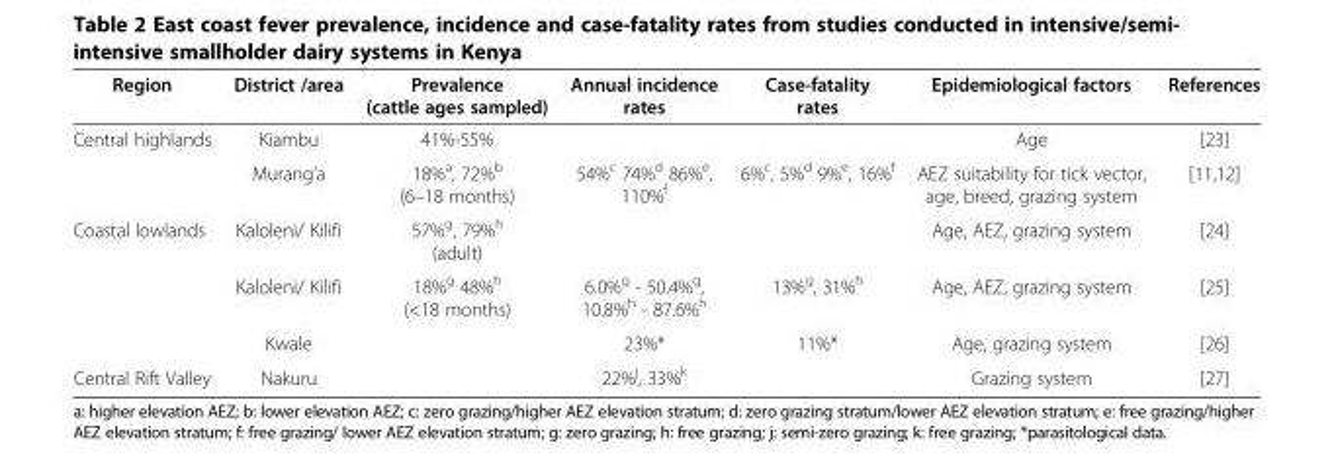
<table><thead><tr><td>Region</td><td>District /area</td><td>Prevalence (cattle ages sampled)</td><td>Annual incidence rates</td><td>Case-fatality rates</td><td>Epidemiological factors</td><td>References</td></tr></thead><tbody><tr><td rowspan="2">Central highlands</td><td>Kiambu</td><td>41%-55%</td><td></td><td></td><td>Age</td><td>[23]</td></tr><tr><td>Murang’a</td><td>18%<sup>a</sup>, 72%<sup>b</sup> (6–18 months)</td><td>54%<sup>c</sup> 74%<sup>d</sup> 86%<sup>e</sup>, 110%<sup>f</sup></td><td>6%<sup>c</sup>, 5%<sup>d</sup> 9%<sup>e</sup>, 16%<sup>f</sup></td><td>AEZ suitability for tick vector, age, breed, grazing system</td><td>[11,12]</td></tr><tr><td rowspan="3">Coastal lowlands</td><td>Kaloleni/ Kilifi</td><td>57%<sup>g</sup>, 79%<sup>h</sup> (adult)</td><td></td><td></td><td>Age, AEZ, grazing system</td><td>[24]</td></tr><tr><td>Kaloleni/ Kilifi</td><td>18%<sup>g</sup> 48%<sup>h</sup> (&lt;18 months)</td><td>6.0%<sup>g</sup> - 50.4%<sup>g</sup>, 10.8%<sup>h</sup> - 87.6%<sup>h</sup></td><td>13%<sup>g</sup>, 31%<sup>h</sup></td><td>Age, AEZ, grazing system</td><td>[25]</td></tr><tr><td>Kwale</td><td></td><td>23%*</td><td>11%*</td><td>Age, grazing system</td><td>[26]</td></tr><tr><td>Central Rift Valley</td><td>Nakuru</td><td></td><td>22%<sup>j</sup>, 33%<sup>k</sup></td><td></td><td>Grazing system</td><td>[27]</td></tr></tbody></table>